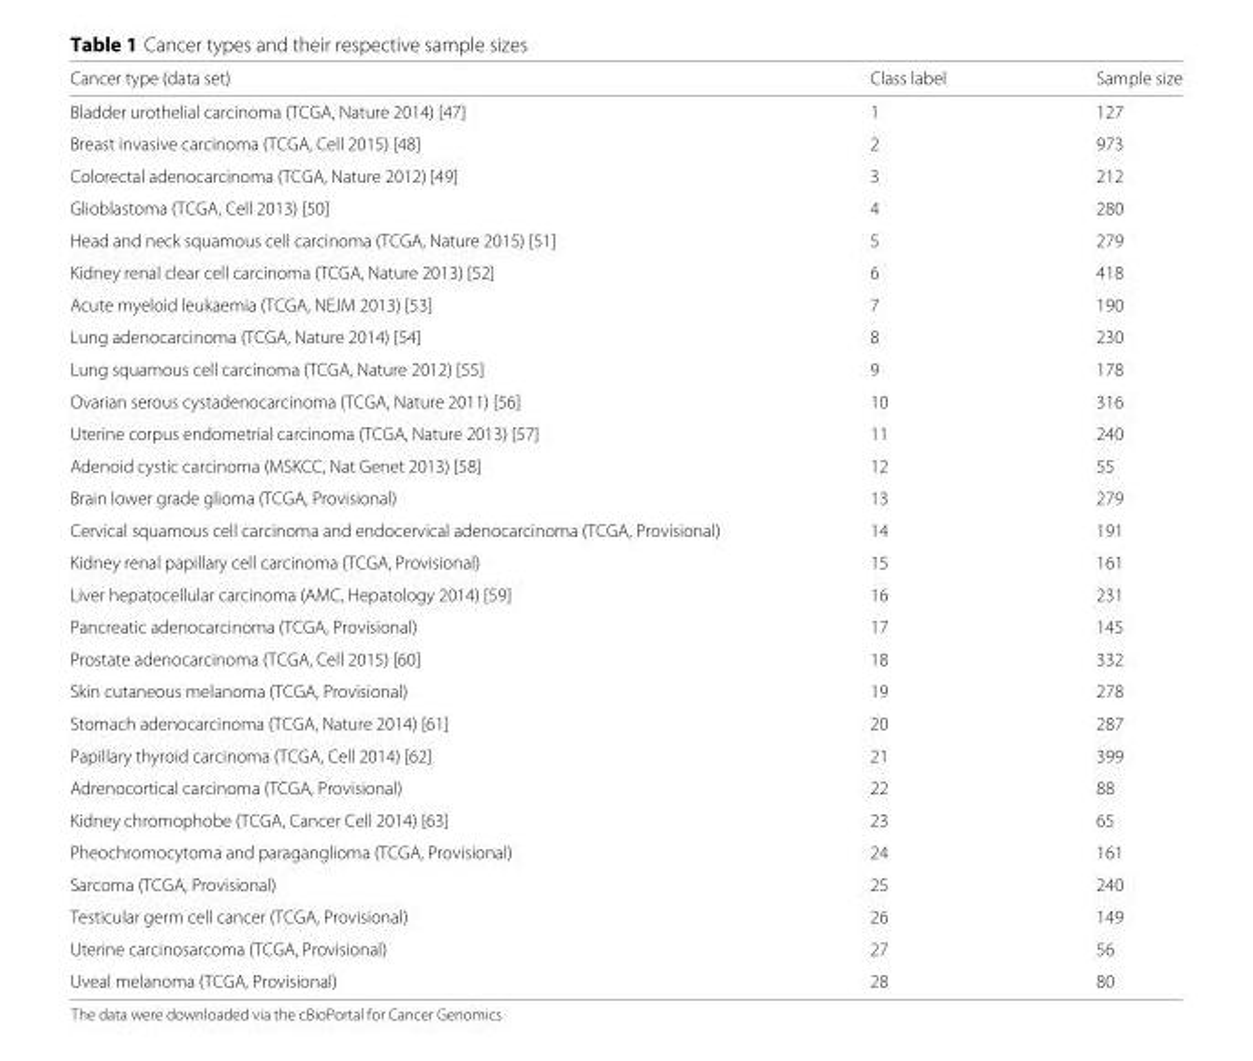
<table><thead><tr><td>Cancer type (data set)</td><td>Class label</td><td>Sample size</td></tr></thead><tbody><tr><td>Bladder urothelial carcinoma (TCGA, Nature 2014) [47]</td><td>1</td><td>127</td></tr><tr><td>Breast invasive carcinoma (TCGA, Cell 2015) [48]</td><td>2</td><td>973</td></tr><tr><td>Colorectal adenocarcinoma (TCGA, Nature 2012) [49]</td><td>3</td><td>212</td></tr><tr><td>Glioblastoma (TCGA, Cell 2013) [50]</td><td>4</td><td>280</td></tr><tr><td>Head and neck squamous cell carcinoma (TCGA, Nature 2015) [51]</td><td>5</td><td>279</td></tr><tr><td>Kidney renal clear cell carcinoma (TCGA, Nature 2013) [52]</td><td>6</td><td>418</td></tr><tr><td>Acute myeloid leukaemia (TCGA, NEJM 2013) [53]</td><td>7</td><td>190</td></tr><tr><td>Lung adenocarcinoma (TCGA, Nature 2014) [54]</td><td>8</td><td>230</td></tr><tr><td>Lung squamous cell carcinoma (TCGA, Nature 2012) [55]</td><td>9</td><td>178</td></tr><tr><td>Ovarian serous cystadenocarcinoma (TCGA, Nature 2011) [56]</td><td>10</td><td>316</td></tr><tr><td>Uterine corpus endometrial carcinoma (TCGA, Nature 2013) [57]</td><td>11</td><td>240</td></tr><tr><td>Adenoid cystic carcinoma (MSKCC, Nat Genet 2013) [58]</td><td>12</td><td>55</td></tr><tr><td>Brain lower grade glioma (TCGA, Provisional)</td><td>13</td><td>279</td></tr><tr><td>Cervical squamous cell carcinoma and endocervical adenocarcinoma (TCGA, Provisional)</td><td>14</td><td>191</td></tr><tr><td>Kidney renal papillary cell carcinoma (TCGA, Provisional)</td><td>15</td><td>161</td></tr><tr><td>Liver hepatocellular carcinoma (AMC, Hepatology 2014) [59]</td><td>16</td><td>231</td></tr><tr><td>Pancreatic adenocarcinoma (TCGA, Provisional)</td><td>17</td><td>145</td></tr><tr><td>Prostate adenocarcinoma (TCGA, Cell 2015) [60]</td><td>18</td><td>332</td></tr><tr><td>Skin cutaneous melanoma (TCGA, Provisional)</td><td>19</td><td>278</td></tr><tr><td>Stomach adenocarcinoma (TCGA, Nature 2014) [61]</td><td>20</td><td>287</td></tr><tr><td>Papillary thyroid carcinoma (TCGA, Cell 2014) [62]</td><td>21</td><td>399</td></tr><tr><td>Adrenocortical carcinoma (TCGA, Provisional)</td><td>22</td><td>88</td></tr><tr><td>Kidney chromophobe (TCGA, Cancer Cell 2014) [63]</td><td>23</td><td>65</td></tr><tr><td>Pheochromocytoma and paraganglioma (TCGA, Provisional)</td><td>24</td><td>161</td></tr><tr><td>Sarcoma (TCGA, Provisional)</td><td>25</td><td>240</td></tr><tr><td>Testicular germ cell cancer (TCGA, Provisional)</td><td>26</td><td>149</td></tr><tr><td>Uterine carcinosarcoma (TCGA, Provisional)</td><td>27</td><td>56</td></tr><tr><td>Uveal melanoma (TCGA, Provisional)</td><td>28</td><td>80</td></tr></tbody></table>